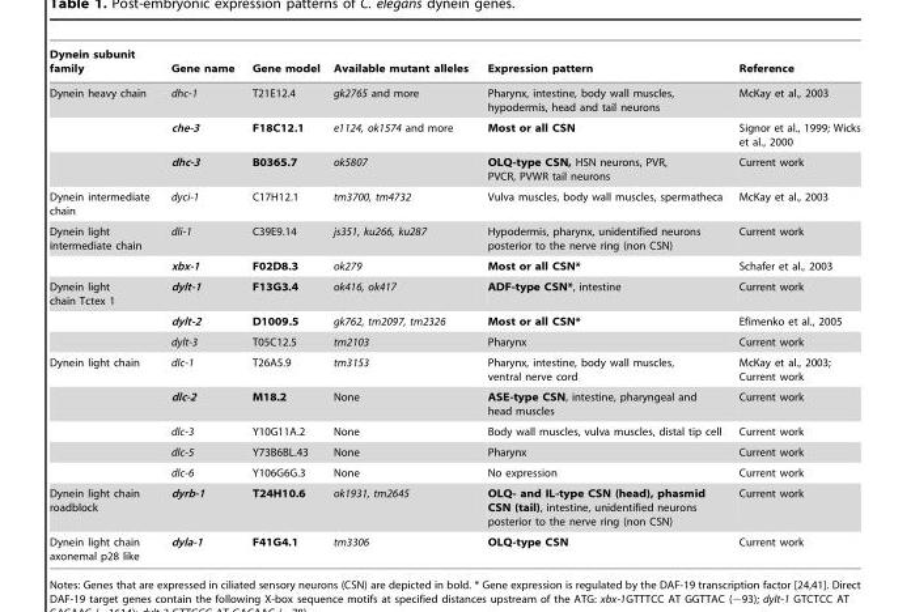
<table><thead><tr><td>Dynein subunit family</td><td>Gene name</td><td>Gene model</td><td>Available mutant alleles</td><td>Expression pattern</td><td>Reference</td></tr></thead><tbody><tr><td rowspan="3">Dynein heavy chain</td><td>dhc-1</td><td>T21E12.4</td><td>gk2765 and more</td><td>Pharynx, intestine, body wall muscles, hypodermis, head and tail neurons</td><td>McKay et al., 2003</td></tr><tr><td>che-3</td><td>F18C12.1</td><td>e1124, ok1574 and more</td><td>Most or all CSN</td><td>Signor et al., 1999; Wicks et al., 2000</td></tr><tr><td>dhc-3</td><td>B0365.7</td><td>ok5807</td><td>OLQ-type CSN, HSN neurons, PVR, PVCR, PVWR tail neurons</td><td>Current work</td></tr><tr><td>Dynein intermediate chain</td><td>dyci-1</td><td>C17H12.1</td><td>tm3700, tm4732</td><td>Vulva muscles, body wall muscles, spermatheca</td><td>McKay et al., 2003</td></tr><tr><td rowspan="2">Dynein light intermediate chain</td><td>dli-1</td><td>C39E9.14</td><td>js351, ku266, ku287</td><td>Hypodermis, pharynx, unidentified neurons posterior to the nerve ring (non CSN)</td><td>Current work</td></tr><tr><td>xbx-1</td><td>F02D8.3</td><td>ok279</td><td>Most or all CSN*</td><td>Schafer et al., 2003</td></tr><tr><td rowspan="3">Dynein light chain Tctex 1</td><td>dylt-1</td><td>F13G3.4</td><td>ok416, ok417</td><td>ADF-type CSN*, intestine</td><td>Current work</td></tr><tr><td>dylt-2</td><td>D1009.5</td><td>gk762, tm2097, tm2326</td><td>Most or all CSN*</td><td>Efimenko et al., 2005</td></tr><tr><td>dylt-3</td><td>T05C12.5</td><td>tm2103</td><td>Pharynx</td><td>Current work</td></tr><tr><td rowspan="5">Dynein light chain</td><td>dlc-1</td><td>T26A5.9</td><td>tm3153</td><td>Pharynx, intestine, body wall muscles, ventral nerve cord</td><td>McKay et al., 2003; Current work</td></tr><tr><td>dlc-2</td><td>M18.2</td><td>None</td><td>ASE-type CSN, intestine, pharyngeal and head muscles</td><td>Current work</td></tr><tr><td>dlc-3</td><td>Y10G11A.2</td><td>None</td><td>Body wall muscles, vulva muscles, distal tip cell</td><td>Current work</td></tr><tr><td>dlc-5</td><td>Y73B6BL.43</td><td>None</td><td>Pharynx</td><td>Current work</td></tr><tr><td>dlc-6</td><td>Y106G6G.3</td><td>None</td><td>No expression</td><td>Current work</td></tr><tr><td>Dynein light chain roadblock</td><td>dyrb-1</td><td>T24H10.6</td><td>ok1931, tm2645</td><td>OLQ- and IL-type CSN (head), phasmid CSN (tail), intestine, unidentified neurons posterior to the nerve ring (non CSN)</td><td>Current work</td></tr><tr><td>Dynein light chain axonemal p28 like</td><td>dyla-1</td><td>F41G4.1</td><td>tm3306</td><td>OLQ-type CSN</td><td>Current work</td></tr></tbody></table>